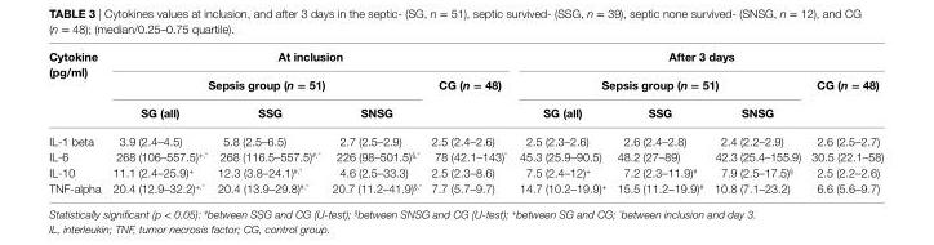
<table><thead><tr><td rowspan="3">cytokine (pg/ml)</td><td colspan="4">at inclusion</td><td colspan="4">after 3 days</td></tr><tr><td colspan="3">sepsis group (n = 51)</td><td rowspan="2">cg (n = 48)</td><td colspan="3">sepsis group (n = 51)</td><td rowspan="2">cg (n = 48)</td></tr><tr><td>sg (all)</td><td>ssg</td><td>snsg</td><td>sg (all)</td><td>ssg</td><td>snsg</td></tr></thead><tbody><tr><td>IL-1 beta</td><td>3.9 (2.4–4.5)</td><td>5.8 (2.5–6.5)</td><td>2.7 (2.5–2.9)</td><td>2.5 (2.4–2.6)</td><td>2.5 (2.3–2.6)</td><td>2.6 (2.4–2.8)</td><td>2.4 (2.2–2.9)</td><td>2.6 (2.5–2.7)</td></tr><tr><td>IL-6</td><td>268 (106–557.5)<sup>+,°</sup></td><td>268 (116.5–557.5)<sup>#,°</sup></td><td>226 (98–501.5)<sup>§,°</sup></td><td>78 (42.1–143)<sup>°</sup></td><td>45.3 (25.9–90.5)</td><td>48.2 (27–89)</td><td>42.3 (25.4–155.9)</td><td>30.5 (22.1–58)</td></tr><tr><td>IL-10</td><td>11.1 (2.4–25.9)<sup>+</sup></td><td>12.3 (3.8–24.1)<sup>#,°</sup></td><td>4.6 (2.5–33.3)</td><td>2.5 (2.3–8.6)</td><td>7.5 (2.4–12)<sup>+</sup></td><td>7.2 (2.3–11.9)<sup>#</sup></td><td>7.9 (2.5–17.5)<sup>§</sup></td><td>2.5 (2.2–2.6)</td></tr><tr><td>TNF-alpha</td><td>20.4 (12.9–32.2)<sup>+,°</sup></td><td>20.4 (13.9–29.8)<sup>#,°</sup></td><td>20.7 (11.2–41.9)<sup>§,°</sup></td><td>7.7 (5.7–9.7)</td><td>14.7 (10.2–19.9)<sup>+</sup></td><td>15.5 (11.2–19.9)<sup>#</sup></td><td>10.8 (7.1–23.2)</td><td>6.6 (5.6–9.7)</td></tr></tbody></table>